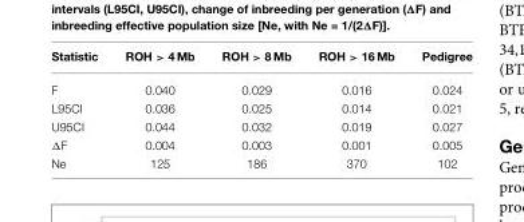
<table><thead><tr><td>Statistic</td><td>ROH &gt; 4 Mb</td><td>ROH &gt; 8 Mb</td><td>ROH &gt; 16 Mb</td><td>Pedigree</td></tr></thead><tbody><tr><td>F</td><td>0.040</td><td>0.029</td><td>0.016</td><td>0.024</td></tr><tr><td>L95CI</td><td>0.036</td><td>0.025</td><td>0.014</td><td>0.021</td></tr><tr><td>U95CI</td><td>0.044</td><td>0.032</td><td>0.019</td><td>0.027</td></tr><tr><td>ΔF</td><td>0.004</td><td>0.003</td><td>0.001</td><td>0.005</td></tr><tr><td>Ne</td><td>125</td><td>186</td><td>370</td><td>102</td></tr></tbody></table>